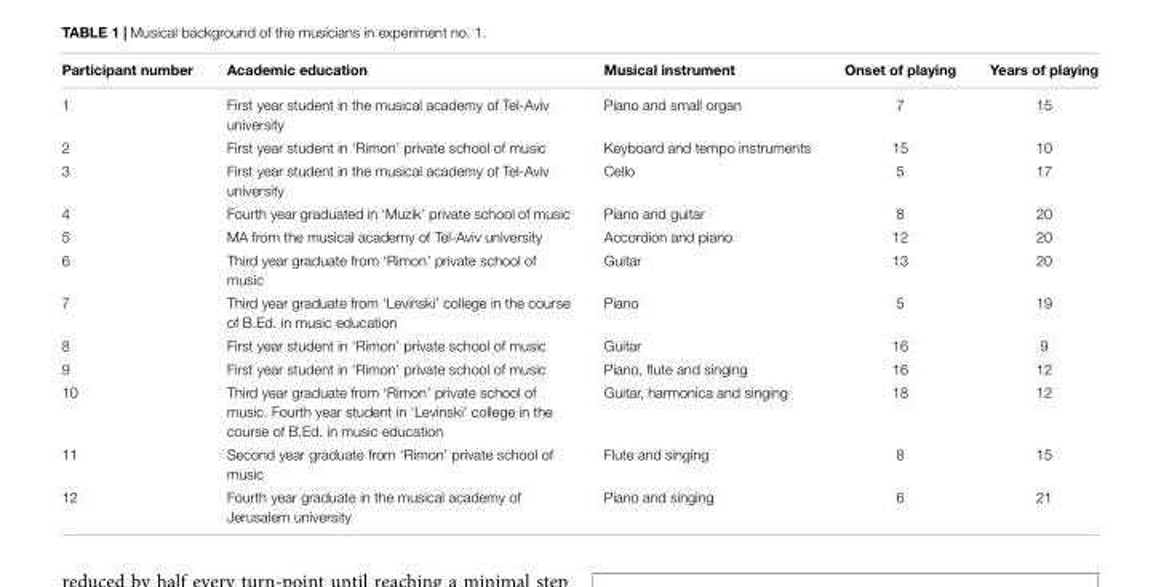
<table><thead><tr><td>Participant number</td><td>Academic education</td><td>Musical instrument</td><td>Onset of playing</td><td>Years of playing</td></tr></thead><tbody><tr><td>1</td><td>First year student in the musical academy of Tel-Aviv university</td><td>Piano and small organ</td><td>7</td><td>15</td></tr><tr><td>2</td><td>First year student in ‘Rimon’ private school of music</td><td>Keyboard and tempo instruments</td><td>15</td><td>10</td></tr><tr><td>3</td><td>First year student in the musical academy of Tel-Aviv university</td><td>Cello</td><td>5</td><td>17</td></tr><tr><td>4</td><td>Fourth year graduated in ‘Muzik’ private school of music</td><td>Piano and guitar</td><td>8</td><td>20</td></tr><tr><td>5</td><td>MA from the musical academy of Tel-Aviv university</td><td>Accordion and piano</td><td>12</td><td>20</td></tr><tr><td>6</td><td>Third year graduate from ‘Rimon’ private school of music</td><td>Guitar</td><td>13</td><td>20</td></tr><tr><td>7</td><td>Third year graduate from ‘Levinski’ college in the course of B.Ed. in music education</td><td>Piano</td><td>5</td><td>19</td></tr><tr><td>8</td><td>First year student in ‘Rimon’ private school of music</td><td>Guitar</td><td>16</td><td>9</td></tr><tr><td>9</td><td>First year student in ‘Rimon’ private school of music</td><td>Piano, flute and singing</td><td>16</td><td>12</td></tr><tr><td>10</td><td>Third year graduate from ‘Rimon’ private school of music. Fourth year student in ‘Levinski’ college in the course of B.Ed. in music education</td><td>Guitar, harmonica and singing</td><td>18</td><td>12</td></tr><tr><td>11</td><td>Second year graduate from ‘Rimon’ private school of music</td><td>Flute and singing</td><td>8</td><td>15</td></tr><tr><td>12</td><td>Fourth year graduate in the musical academy of Jerusalem university</td><td>Piano and singing</td><td>6</td><td>21</td></tr></tbody></table>